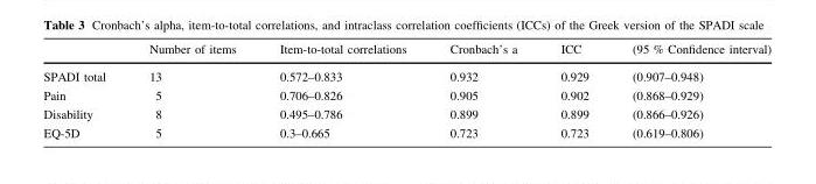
<table><thead><tr><td></td><td>Number of items</td><td>Item-to-total correlations</td><td>Cronbach’s a</td><td>ICC</td><td>(95 % Confidence interval)</td></tr></thead><tbody><tr><td>SPADI total</td><td>13</td><td>0.572–0.833</td><td>0.932</td><td>0.929</td><td>(0.907–0.948)</td></tr><tr><td>Pain</td><td>5</td><td>0.706–0.826</td><td>0.905</td><td>0.902</td><td>(0.868–0.929)</td></tr><tr><td>Disability</td><td>8</td><td>0.495–0.786</td><td>0.899</td><td>0.899</td><td>(0.866–0.926)</td></tr><tr><td>EQ-5D</td><td>5</td><td>0.3–0.665</td><td>0.723</td><td>0.723</td><td>(0.619–0.806)</td></tr></tbody></table>